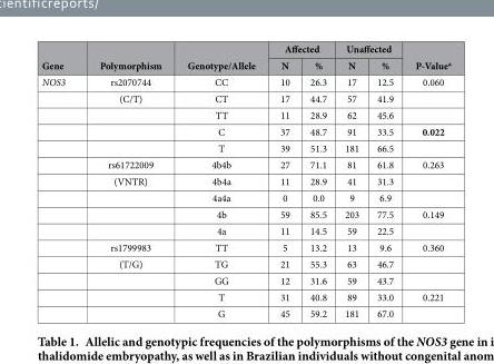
<table><thead><tr><td rowspan="2">Gene</td><td rowspan="2">Polymorphism</td><td rowspan="2">Genotype/Allele</td><td colspan="2">Affected</td><td colspan="2">Unaffected</td><td rowspan="2">P-Value<sup>a</sup></td></tr><tr><td>N</td><td>%</td><td>N</td><td>%</td></tr></thead><tbody><tr><td rowspan="15">NOS3</td><td>rs2070744</td><td>CC</td><td>10</td><td>26.3</td><td>17</td><td>12.5</td><td>0.060</td></tr><tr><td>(C/T)</td><td>CT</td><td>17</td><td>44.7</td><td>57</td><td>41.9</td><td></td></tr><tr><td></td><td>TT</td><td>11</td><td>28.9</td><td>62</td><td>45.6</td><td></td></tr><tr><td></td><td>C</td><td>37</td><td>48.7</td><td>91</td><td>33.5</td><td>0.022</td></tr><tr><td></td><td>T</td><td>39</td><td>51.3</td><td>181</td><td>66.5</td><td></td></tr><tr><td>rs61722009</td><td>4b4b</td><td>27</td><td>71.1</td><td>81</td><td>61.8</td><td>0.263</td></tr><tr><td>(VNTR)</td><td>4b4a</td><td>11</td><td>28.9</td><td>41</td><td>31.3</td><td></td></tr><tr><td></td><td>4a4a</td><td>0</td><td>0.0</td><td>9</td><td>6.9</td><td></td></tr><tr><td></td><td>4b</td><td>59</td><td>85.5</td><td>203</td><td>77.5</td><td>0.149</td></tr><tr><td></td><td>4a</td><td>11</td><td>14.5</td><td>59</td><td>22.5</td><td></td></tr><tr><td>rs1799983</td><td>TT</td><td>5</td><td>13.2</td><td>13</td><td>9.6</td><td>0.360</td></tr><tr><td>(T/G)</td><td>TG</td><td>21</td><td>55.3</td><td>63</td><td>46.7</td><td></td></tr><tr><td></td><td>GG</td><td>12</td><td>31.6</td><td>59</td><td>43.7</td><td></td></tr><tr><td></td><td>T</td><td>31</td><td>40.8</td><td>89</td><td>33.0</td><td>0.221</td></tr><tr><td></td><td>G</td><td>45</td><td>59.2</td><td>181</td><td>67.0</td><td></td></tr></tbody></table>